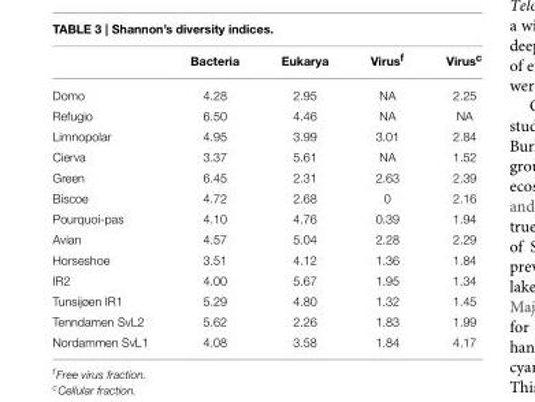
<table><thead><tr><td></td><td>Bacteria</td><td>Eukarya</td><td>Virus<sup>f</sup></td><td>Virus<sup>c</sup></td></tr></thead><tbody><tr><td>Domo</td><td>4.28</td><td>2.95</td><td>NA</td><td>2.25</td></tr><tr><td>Refugio</td><td>6.50</td><td>4.46</td><td>NA</td><td>NA</td></tr><tr><td>Limnopolar</td><td>4.95</td><td>3.99</td><td>3.01</td><td>2.84</td></tr><tr><td>Cierva</td><td>3.37</td><td>5.61</td><td>NA</td><td>1.52</td></tr><tr><td>Green</td><td>6.45</td><td>2.31</td><td>2.63</td><td>2.39</td></tr><tr><td>Biscoe</td><td>4.72</td><td>2.68</td><td>0</td><td>2.16</td></tr><tr><td>Pourquoi-pas</td><td>4.10</td><td>4.76</td><td>0.39</td><td>1.94</td></tr><tr><td>Avian</td><td>4.57</td><td>5.04</td><td>2.28</td><td>2.29</td></tr><tr><td>Horseshoe</td><td>3.51</td><td>4.12</td><td>1.36</td><td>1.84</td></tr><tr><td>IR2</td><td>4.00</td><td>5.67</td><td>1.95</td><td>1.34</td></tr><tr><td>Tunsijøen IR1</td><td>5.29</td><td>4.80</td><td>1.32</td><td>1.45</td></tr><tr><td>Tenndamen SvL2</td><td>5.62</td><td>2.26</td><td>1.83</td><td>1.99</td></tr><tr><td>Nordammen SvL1</td><td>4.08</td><td>3.58</td><td>1.84</td><td>4.17</td></tr></tbody></table>